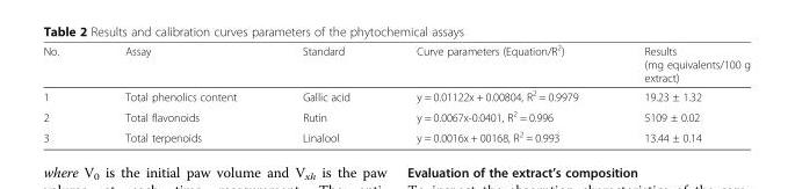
<table><thead><tr><td>No.</td><td>Assay</td><td>Standard</td><td>Curve parameters (Equation/R<sup>2</sup>)</td><td>Results (mg equivalents/100 g extract)</td></tr></thead><tbody><tr><td>1</td><td>Total phenolics content</td><td>Gallic acid</td><td>y = 0.01122x + 0.00804, R<sup>2</sup> = 0.9979</td><td>19.23 ± 1.32</td></tr><tr><td>2</td><td>Total flavonoids</td><td>Rutin</td><td>y = 0.0067x-0.0401, R<sup>2</sup> = 0.996</td><td>5109 ± 0.02</td></tr><tr><td>3</td><td>Total terpenoids</td><td>Linalool</td><td>y = 0.0016x + 00168, R<sup>2</sup> = 0.993</td><td>13.44 ± 0.14</td></tr></tbody></table>